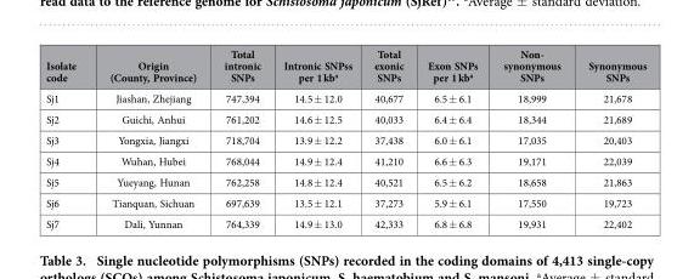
<table><thead><tr><td>Isolate code</td><td>Origin (County, Province)</td><td>Total intronic SNPs</td><td>Intronic SNPss per 1 kb<sup>a</sup></td><td>Total exonic SNPs</td><td>Exon SNPs per 1 kb<sup>a</sup></td><td>Non- synonymous SNPs</td><td>Synonymous SNPs</td></tr></thead><tbody><tr><td>Sj1</td><td>Jiashan, Zhejiang</td><td>747,394</td><td>14.5 ± 12.0</td><td>40,677</td><td>6.5 ± 6.1</td><td>18,999</td><td>21,678</td></tr><tr><td>Sj2</td><td>Guichi, Anhui</td><td>761,202</td><td>14.6 ± 12.5</td><td>40,033</td><td>6.4 ± 6.4</td><td>18,344</td><td>21,689</td></tr><tr><td>Sj3</td><td>Yongxia, Jiangxi</td><td>718,704</td><td>13.9 ± 12.2</td><td>37,438</td><td>6.0 ± 6.1</td><td>17,035</td><td>20,403</td></tr><tr><td>Sj4</td><td>Wuhan, Hubei</td><td>768,044</td><td>14.9 ± 12.4</td><td>41,210</td><td>6.6 ± 6.3</td><td>19,171</td><td>22,039</td></tr><tr><td>Sj5</td><td>Yueyang, Hunan</td><td>762,258</td><td>14.8 ± 12.4</td><td>40,521</td><td>6.5 ± 6.2</td><td>18,658</td><td>21,863</td></tr><tr><td>Sj6</td><td>Tianquan, Sichuan</td><td>697,639</td><td>13.5 ± 12.1</td><td>37,273</td><td>5.9 ± 6.1</td><td>17,550</td><td>19,723</td></tr><tr><td>Sj7</td><td>Dali, Yunnan</td><td>764,339</td><td>14.9 ± 13.0</td><td>42,333</td><td>6.8 ± 6.8</td><td>19,931</td><td>22,402</td></tr></tbody></table>